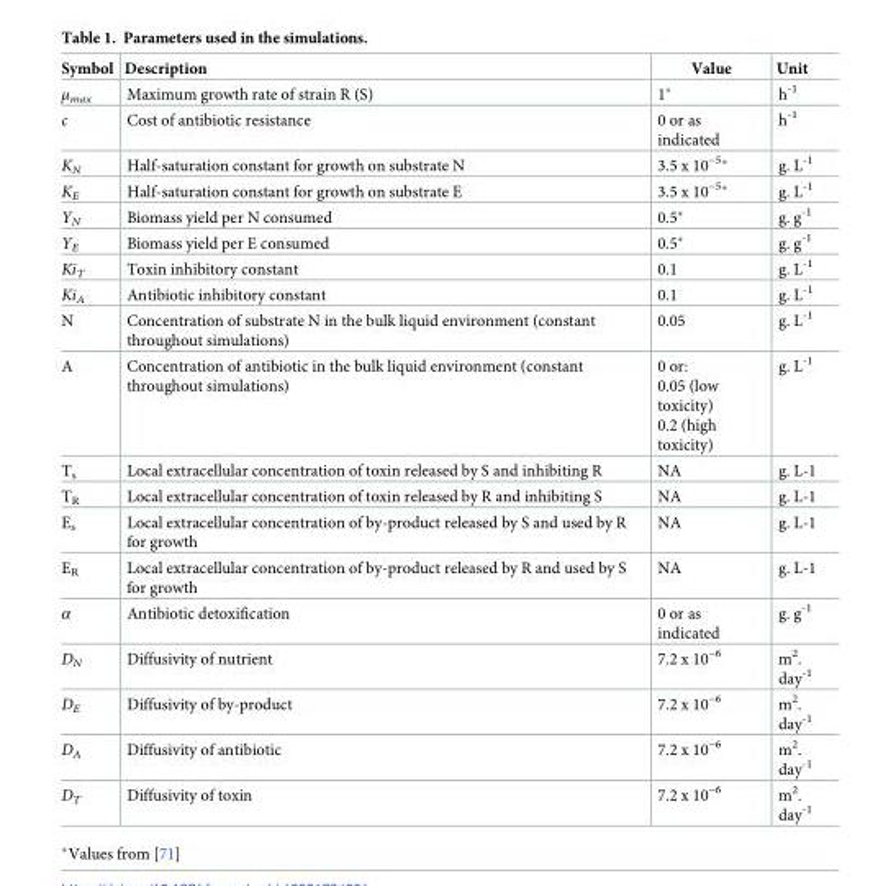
<table><thead><tr><td>Symbol</td><td>Description</td><td>Value</td><td>Unit</td></tr></thead><tbody><tr><td>μ<sub>max</sub></td><td>Maximum growth rate of strain R (S)</td><td>1*</td><td>h<sup>-1</sup></td></tr><tr><td>c</td><td>Cost of antibiotic resistance</td><td>0 or as indicated</td><td>h<sup>-1</sup></td></tr><tr><td>K<sub>N</sub></td><td>Half-saturation constant for growth on substrate N</td><td>3.5 x 10<sup>−5</sup>*</td><td>g. L<sup>-1</sup></td></tr><tr><td>K<sub>E</sub></td><td>Half-saturation constant for growth on substrate E</td><td>3.5 x 10<sup>−5</sup>*</td><td>g. L<sup>-1</sup></td></tr><tr><td>Y<sub>N</sub></td><td>Biomass yield per N consumed</td><td>0.5*</td><td>g. g<sup>-1</sup></td></tr><tr><td>Y<sub>E</sub></td><td>Biomass yield per E consumed</td><td>0.5*</td><td>g. g<sup>-1</sup></td></tr><tr><td>Ki<sub>T</sub></td><td>Toxin inhibitory constant</td><td>0.1</td><td>g. L<sup>-1</sup></td></tr><tr><td>Ki<sub>A</sub></td><td>Antibiotic inhibitory constant</td><td>0.1</td><td>g. L<sup>-1</sup></td></tr><tr><td>N</td><td>Concentration of substrate N in the bulk liquid environment (constant throughout simulations)</td><td>0.05</td><td>g. L<sup>-1</sup></td></tr><tr><td>A</td><td>Concentration of antibiotic in the bulk liquid environment (constant throughout simulations)</td><td>0 or: 0.05 (low toxicity) 0.2 (high toxicity)</td><td>g. L<sup>-1</sup></td></tr><tr><td>T<sub>s</sub></td><td>Local extracellular concentration of toxin released by S and inhibiting R</td><td>NA</td><td>g. L-1</td></tr><tr><td>T<sub>R</sub></td><td>Local extracellular concentration of toxin released by R and inhibiting S</td><td>NA</td><td>g. L-1</td></tr><tr><td>E<sub>s</sub></td><td>Local extracellular concentration of by-product released by S and used by R for growth</td><td>NA</td><td>g. L-1</td></tr><tr><td>E<sub>R</sub></td><td>Local extracellular concentration of by-product released by R and used by S for growth</td><td>NA</td><td>g. L-1</td></tr><tr><td>α</td><td>Antibiotic detoxification</td><td>0 or as indicated</td><td>g. g<sup>-1</sup></td></tr><tr><td>D<sub>N</sub></td><td>Diffusivity of nutrient</td><td>7.2 x 10<sup>−6</sup></td><td>m<sup>2</sup>. day<sup>-1</sup></td></tr><tr><td>D<sub>E</sub></td><td>Diffusivity of by-product</td><td>7.2 x 10<sup>−6</sup></td><td>m<sup>2</sup>. day<sup>-1</sup></td></tr><tr><td>D<sub>A</sub></td><td>Diffusivity of antibiotic</td><td>7.2 x 10<sup>−6</sup></td><td>m<sup>2</sup>. day<sup>-1</sup></td></tr><tr><td>D<sub>T</sub></td><td>Diffusivity of toxin</td><td>7.2 x 10<sup>−6</sup></td><td>m<sup>2</sup>. day<sup>-1</sup></td></tr></tbody></table>